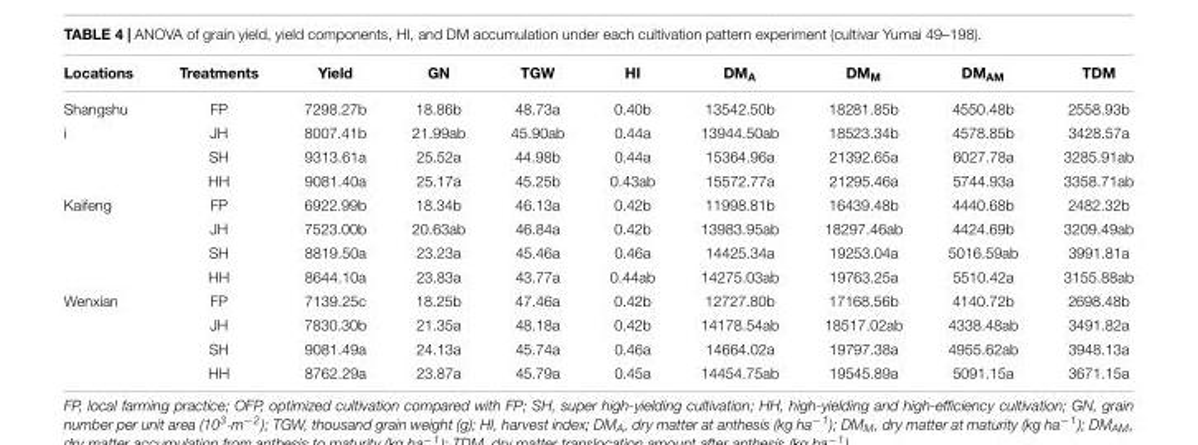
<table><thead><tr><td>Locations</td><td>Treatments</td><td>Yield</td><td>GN</td><td>TGW</td><td>HI</td><td>DM<sub>A</sub></td><td>DM<sub>M</sub></td><td>DM<sub>AM</sub></td><td>TDM</td></tr></thead><tbody><tr><td>Shangshu</td><td>FP</td><td>7298.27b</td><td>18.86b</td><td>48.73a</td><td>0.40b</td><td>13542.50b</td><td>18281.85b</td><td>4550.48b</td><td>2558.93b</td></tr><tr><td rowspan="3">i</td><td>JH</td><td>8007.41b</td><td>21.99ab</td><td>45.90ab</td><td>0.44a</td><td>13944.50ab</td><td>18523.34b</td><td>4578.85b</td><td>3428.57a</td></tr><tr><td>SH</td><td>9313.61a</td><td>25.52a</td><td>44.98b</td><td>0.44a</td><td>15364.96a</td><td>21392.65a</td><td>6027.78a</td><td>3285.91ab</td></tr><tr><td>HH</td><td>9081.40a</td><td>25.17a</td><td>45.25b</td><td>0.43ab</td><td>15572.77a</td><td>21295.46a</td><td>5744.93a</td><td>3358.71ab</td></tr><tr><td rowspan="4">Kaifeng</td><td>FP</td><td>6922.99b</td><td>18.34b</td><td>46.13a</td><td>0.42b</td><td>11998.81b</td><td>16439.48b</td><td>4440.68b</td><td>2482.32b</td></tr><tr><td>JH</td><td>7523.00b</td><td>20.63ab</td><td>46.84a</td><td>0.42b</td><td>13983.95ab</td><td>18297.46ab</td><td>4424.69b</td><td>3209.49ab</td></tr><tr><td>SH</td><td>8819.50a</td><td>23.23a</td><td>45.46a</td><td>0.46a</td><td>14425.34a</td><td>19253.04a</td><td>5016.59ab</td><td>3991.81a</td></tr><tr><td>HH</td><td>8644.10a</td><td>23.83a</td><td>43.77a</td><td>0.44ab</td><td>14275.03ab</td><td>19763.25a</td><td>5510.42a</td><td>3155.88ab</td></tr><tr><td rowspan="4">Wenxian</td><td>FP</td><td>7139.25c</td><td>18.25b</td><td>47.46a</td><td>0.42b</td><td>12727.80b</td><td>17168.56b</td><td>4140.72b</td><td>2698.48b</td></tr><tr><td>JH</td><td>7830.30b</td><td>21.35a</td><td>48.18a</td><td>0.42b</td><td>14178.54ab</td><td>18517.02ab</td><td>4338.48ab</td><td>3491.82a</td></tr><tr><td>SH</td><td>9081.49a</td><td>24.13a</td><td>45.74a</td><td>0.46a</td><td>14664.02a</td><td>19797.38a</td><td>4955.62ab</td><td>3948.13a</td></tr><tr><td>HH</td><td>8762.29a</td><td>23.87a</td><td>45.79a</td><td>0.45a</td><td>14454.75ab</td><td>19545.89a</td><td>5091.15a</td><td>3671.15a</td></tr></tbody></table>